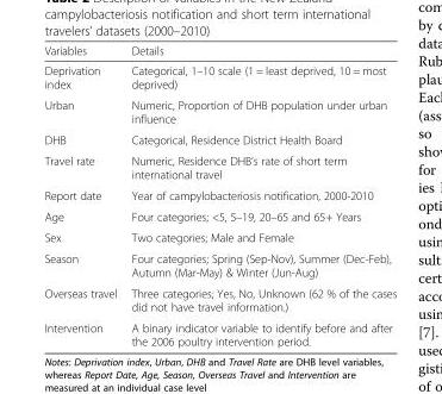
<table><thead><tr><td>Variables</td><td>Details</td></tr></thead><tbody><tr><td>Deprivation index</td><td>Categorical, 1–10 scale (1 = least deprived, 10 = most deprived)</td></tr><tr><td>Urban</td><td>Numeric, Proportion of DHB population under urban influence</td></tr><tr><td>DHB</td><td>Categorical, Residence District Health Board</td></tr><tr><td>Travel rate</td><td>Numeric, Residence DHB’s rate of short term international travel</td></tr><tr><td>Report date</td><td>Year of campylobacteriosis notification, 2000-2010</td></tr><tr><td>Age</td><td>Four categories; &lt;5, 5–19, 20–65 and 65+ Years</td></tr><tr><td>Sex</td><td>Two categories; Male and Female</td></tr><tr><td>Season</td><td>Four categories; Spring (Sep-Nov), Summer (Dec-Feb), Autumn (Mar-May) &amp; Winter (Jun-Aug)</td></tr><tr><td>Overseas travel</td><td>Three categories; Yes, No, Unknown (62 % of the cases did not have travel information.)</td></tr><tr><td>Intervention</td><td>A binary indicator variable to identify before and after the 2006 poultry intervention period.</td></tr></tbody></table>